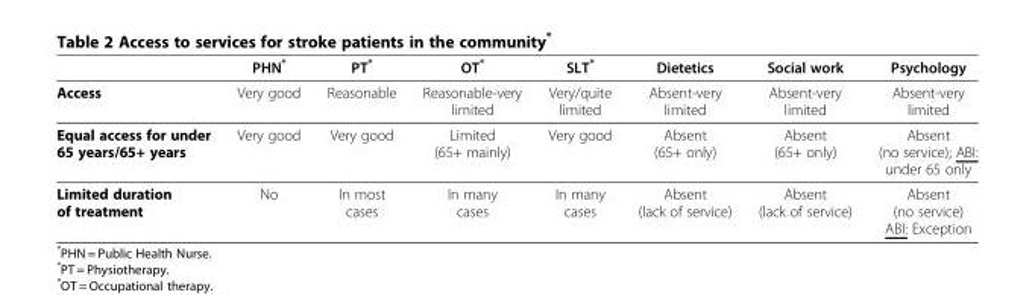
<table><thead><tr><td></td><td>PHN*</td><td>PT*</td><td>OT*</td><td>SLT*</td><td>Dietetics</td><td>Social work</td><td>Psychology</td></tr></thead><tbody><tr><td>Access</td><td>Very good</td><td>Reasonable</td><td>Reasonable-very limited</td><td>Very/quite limited</td><td>Absent-very limited</td><td>Absent-very limited</td><td>Absent-very limited</td></tr><tr><td>Equal access for under 65 years/65+ years</td><td>Very good</td><td>Very good</td><td>Limited (65+ mainly)</td><td>Very good</td><td>Absent (65+ only)</td><td>Absent (65+ only)</td><td>Absent (no service); ABI: under 65 only</td></tr><tr><td>Limited duration of treatment</td><td>No</td><td>In most cases</td><td>In many cases</td><td>In many cases</td><td>Absent (lack of service)</td><td>Absent (lack of service)</td><td>Absent (no service) ABI: Exception</td></tr></tbody></table>